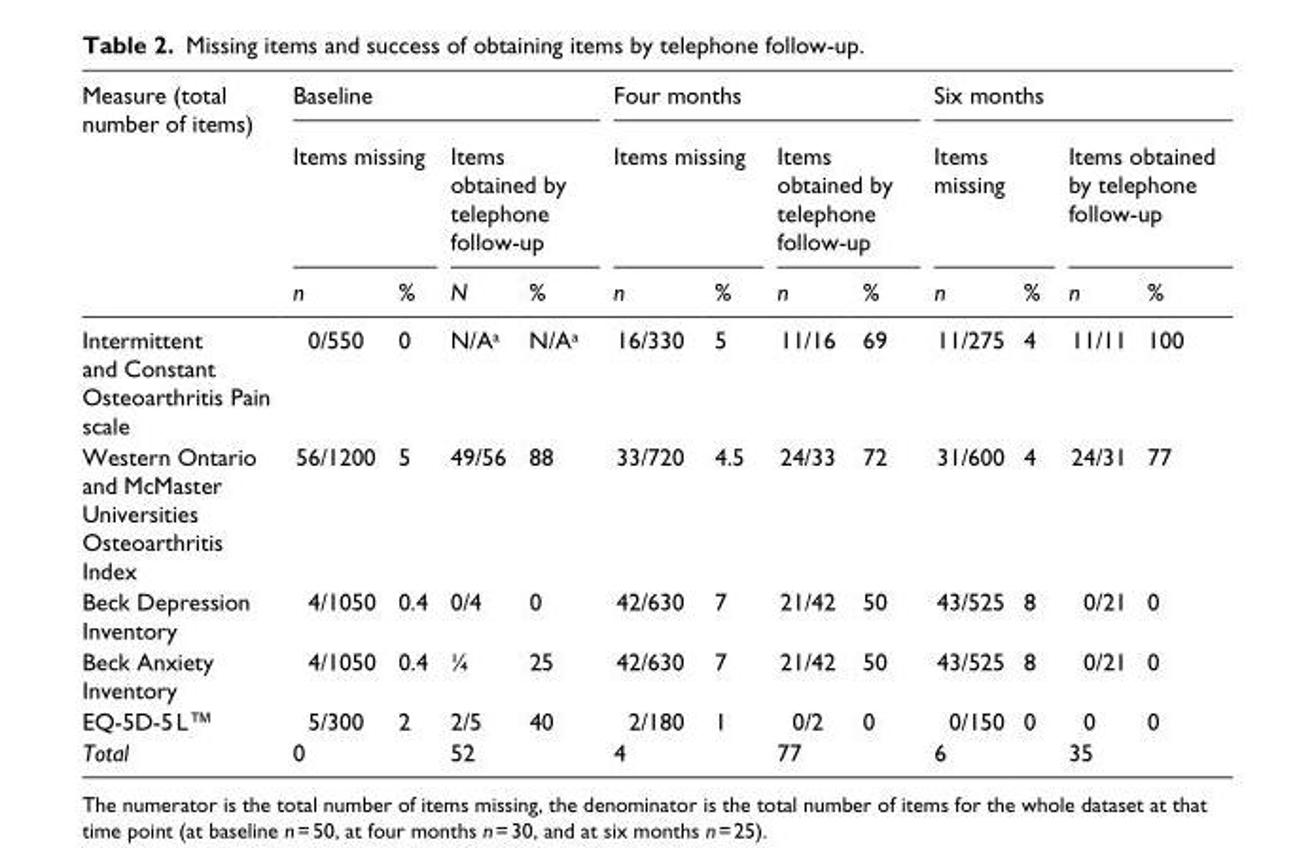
<table><thead><tr><td rowspan="3">Measure (total number of items)</td><td colspan="4">Baseline</td><td colspan="4">Four months</td><td colspan="4">Six months</td></tr><tr><td colspan="2">Items missing</td><td colspan="2">Items obtained by telephone follow-up</td><td colspan="2">Items missing</td><td colspan="2">Items obtained by telephone follow-up</td><td colspan="2">Items missing</td><td colspan="2">Items obtained by telephone follow-up</td></tr><tr><td>n</td><td>%</td><td>N</td><td>%</td><td>n</td><td>%</td><td>n</td><td>%</td><td>n</td><td>%</td><td>n</td><td>%</td></tr></thead><tbody><tr><td>Intermittent and Constant Osteoarthritis Pain scale</td><td>0/550</td><td>0</td><td>N/A<sup>a</sup></td><td>N/A<sup>a</sup></td><td>16/330</td><td>5</td><td>11/16</td><td>69</td><td>11/275</td><td>4</td><td>11/11</td><td>100</td></tr><tr><td>Western Ontario and McMaster Universities Osteoarthritis Index</td><td>56/1200</td><td>5</td><td>49/56</td><td>88</td><td>33/720</td><td>4.5</td><td>24/33</td><td>72</td><td>31/600</td><td>4</td><td>24/31</td><td>77</td></tr><tr><td>Beck Depression Inventory</td><td>4/1050</td><td>0.4</td><td>0/4</td><td>0</td><td>42/630</td><td>7</td><td>21/42</td><td>50</td><td>43/525</td><td>8</td><td>0/21</td><td>0</td></tr><tr><td>Beck Anxiety Inventory</td><td>4/1050</td><td>0.4</td><td>¼</td><td>25</td><td>42/630</td><td>7</td><td>21/42</td><td>50</td><td>43/525</td><td>8</td><td>0/21</td><td>0</td></tr><tr><td>EQ-5D-5 L™</td><td>5/300</td><td>2</td><td>2/5</td><td>40</td><td>2/180</td><td>1</td><td>0/2</td><td>0</td><td>0/150</td><td>0</td><td>0</td><td>0</td></tr><tr><td>Total</td><td>0</td><td></td><td>52</td><td></td><td>4</td><td></td><td>77</td><td></td><td>6</td><td></td><td>35</td><td></td></tr></tbody></table>